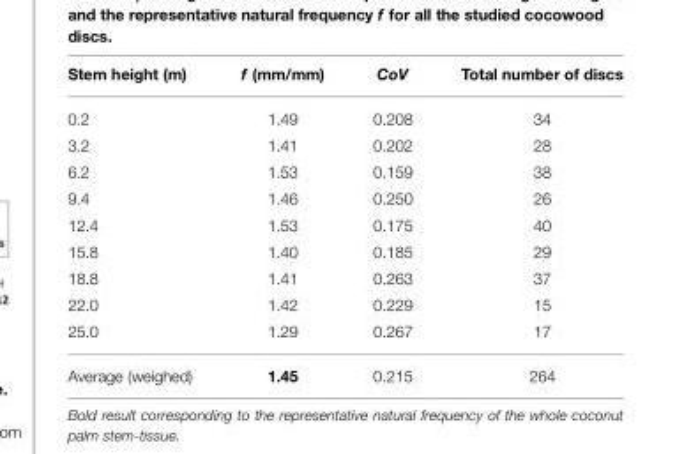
<table><thead><tr><td>Stem height (m)</td><td>f (mm/mm)</td><td>CoV</td><td>Total number of discs</td></tr></thead><tbody><tr><td>0.2</td><td>1.49</td><td>0.208</td><td>34</td></tr><tr><td>3.2</td><td>1.41</td><td>0.202</td><td>28</td></tr><tr><td>6.2</td><td>1.53</td><td>0.159</td><td>38</td></tr><tr><td>9.4</td><td>1.46</td><td>0.250</td><td>26</td></tr><tr><td>12.4</td><td>1.53</td><td>0.175</td><td>40</td></tr><tr><td>15.8</td><td>1.40</td><td>0.185</td><td>29</td></tr><tr><td>18.8</td><td>1.41</td><td>0.263</td><td>37</td></tr><tr><td>22.0</td><td>1.42</td><td>0.229</td><td>15</td></tr><tr><td>25.0</td><td>1.29</td><td>0.267</td><td>17</td></tr><tr><td>Average (weighed)</td><td>1.45</td><td>0.215</td><td>264</td></tr></tbody></table>